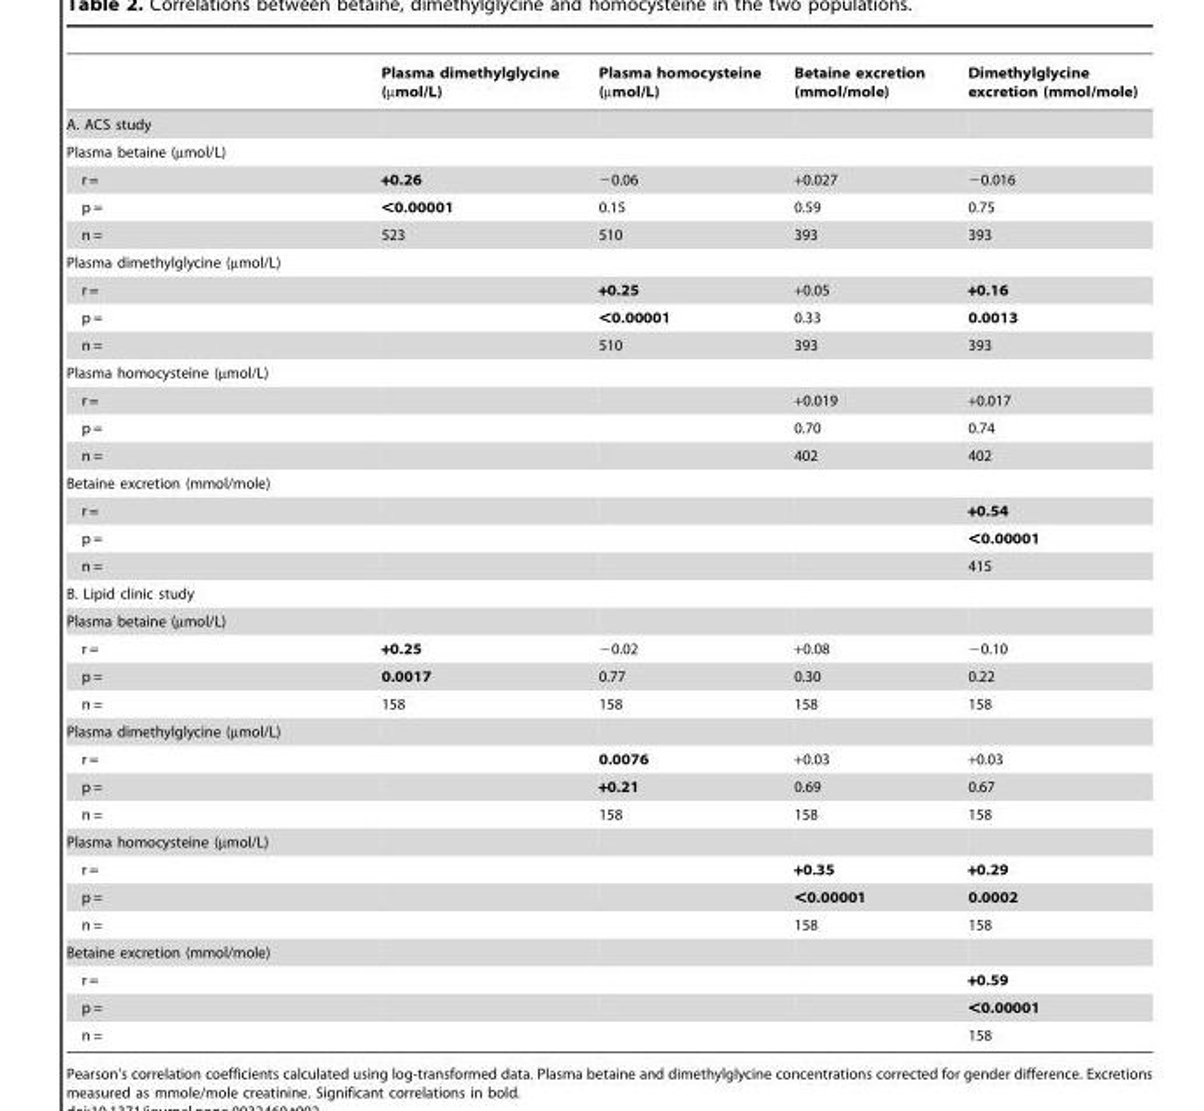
<table><thead><tr><td></td><td>Plasma dimethylglycine (µmol/L)</td><td>Plasma homocysteine (µmol/L)</td><td>Betaine excretion (mmol/mole)</td><td>Dimethylglycine excretion (mmol/mole)</td></tr></thead><tbody><tr><td colspan="5">A. ACS study</td></tr><tr><td colspan="5">Plasma betaine (µmol/L)</td></tr><tr><td>r =</td><td>+0.26</td><td>−0.06</td><td>+0.027</td><td>−0.016</td></tr><tr><td>p =</td><td>&lt;0.00001</td><td>0.15</td><td>0.59</td><td>0.75</td></tr><tr><td>n =</td><td>523</td><td>510</td><td>393</td><td>393</td></tr><tr><td colspan="5">Plasma dimethylglycine (µmol/L)</td></tr><tr><td>r =</td><td></td><td>+0.25</td><td>+0.05</td><td>+0.16</td></tr><tr><td>p =</td><td></td><td>&lt;0.00001</td><td>0.33</td><td>0.0013</td></tr><tr><td>n =</td><td></td><td>510</td><td>393</td><td>393</td></tr><tr><td colspan="5">Plasma homocysteine (µmol/L)</td></tr><tr><td>r =</td><td></td><td></td><td>+0.019</td><td>+0.017</td></tr><tr><td>p =</td><td></td><td></td><td>0.70</td><td>0.74</td></tr><tr><td>n =</td><td></td><td></td><td>402</td><td>402</td></tr><tr><td colspan="5">Betaine excretion (mmol/mole)</td></tr><tr><td>r =</td><td></td><td></td><td></td><td>+0.54</td></tr><tr><td>p =</td><td></td><td></td><td></td><td>&lt;0.00001</td></tr><tr><td>n =</td><td></td><td></td><td></td><td>415</td></tr><tr><td colspan="5">B. Lipid clinic study</td></tr><tr><td colspan="5">Plasma betaine (µmol/L)</td></tr><tr><td>r =</td><td>+0.25</td><td>−0.02</td><td>+0.08</td><td>−0.10</td></tr><tr><td>p =</td><td>0.0017</td><td>0.77</td><td>0.30</td><td>0.22</td></tr><tr><td>n =</td><td>158</td><td>158</td><td>158</td><td>158</td></tr><tr><td colspan="5">Plasma dimethylglycine (µmol/L)</td></tr><tr><td>r =</td><td></td><td>0.0076</td><td>+0.03</td><td>+0.03</td></tr><tr><td>p =</td><td></td><td>+0.21</td><td>0.69</td><td>0.67</td></tr><tr><td>n =</td><td></td><td>158</td><td>158</td><td>158</td></tr><tr><td colspan="5">Plasma homocysteine (µmol/L)</td></tr><tr><td>r =</td><td></td><td></td><td>+0.35</td><td>+0.29</td></tr><tr><td>p =</td><td></td><td></td><td>&lt;0.00001</td><td>0.0002</td></tr><tr><td>n =</td><td></td><td></td><td>158</td><td>158</td></tr><tr><td colspan="5">Betaine excretion (mmol/mole)</td></tr><tr><td>r =</td><td></td><td></td><td></td><td>+0.59</td></tr><tr><td>p =</td><td></td><td></td><td></td><td>&lt;0.00001</td></tr><tr><td>n =</td><td></td><td></td><td></td><td>158</td></tr></tbody></table>